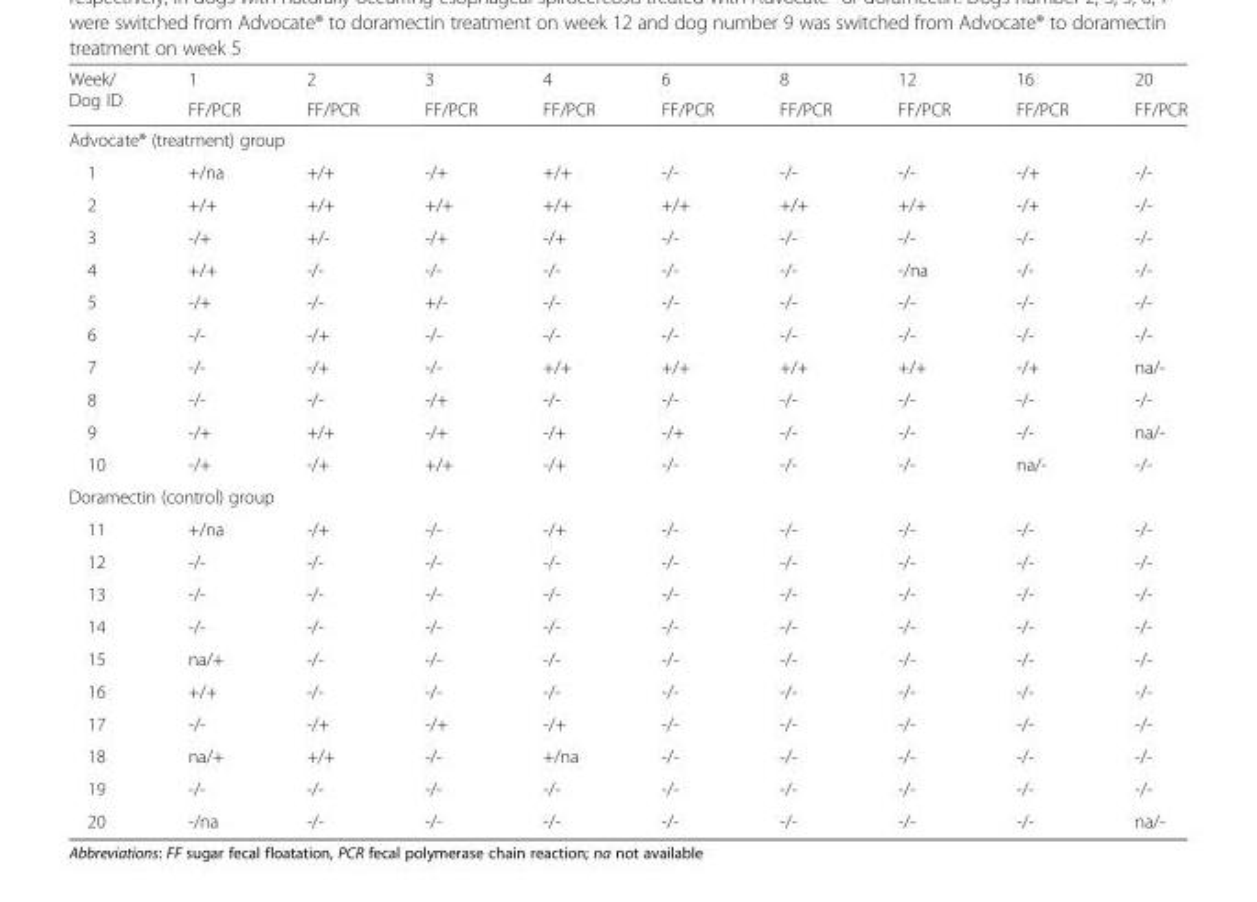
<table><thead><tr><td rowspan="2">Week/ Dog ID</td><td rowspan="2">1 FF/PCR</td><td rowspan="2">2 FF/PCR</td><td rowspan="2">3 FF/PCR</td><td rowspan="2">4 FF/PCR</td><td rowspan="2">6 FF/PCR</td><td rowspan="2">8 FF/PCR</td><td rowspan="2">12 FF/PCR</td><td rowspan="2">16 FF/PCR</td><td rowspan="2">20 FF/PCR</td></tr><tr></tr></thead><tbody><tr><td colspan="10">Advocate® (treatment) group</td></tr><tr><td>1</td><td>+/na</td><td>+/+</td><td>-/+</td><td>+/+</td><td>-/-</td><td>-/-</td><td>-/-</td><td>-/+</td><td>-/-</td></tr><tr><td>2</td><td>+/+</td><td>+/+</td><td>+/+</td><td>+/+</td><td>+/+</td><td>+/+</td><td>+/+</td><td>-/+</td><td>-/-</td></tr><tr><td>3</td><td>-/+</td><td>+/-</td><td>-/+</td><td>-/+</td><td>-/-</td><td>-/-</td><td>-/-</td><td>-/-</td><td>-/-</td></tr><tr><td>4</td><td>+/+</td><td>-/-</td><td>-/-</td><td>-/-</td><td>-/-</td><td>-/-</td><td>-/na</td><td>-/-</td><td>-/-</td></tr><tr><td>5</td><td>-/+</td><td>-/-</td><td>+/-</td><td>-/-</td><td>-/-</td><td>-/-</td><td>-/-</td><td>-/-</td><td>-/-</td></tr><tr><td>6</td><td>-/-</td><td>-/+</td><td>-/-</td><td>-/-</td><td>-/-</td><td>-/-</td><td>-/-</td><td>-/-</td><td>-/-</td></tr><tr><td>7</td><td>-/-</td><td>-/+</td><td>-/-</td><td>+/+</td><td>+/+</td><td>+/+</td><td>+/+</td><td>-/+</td><td>na/-</td></tr><tr><td>8</td><td>-/-</td><td>-/-</td><td>-/+</td><td>-/-</td><td>-/-</td><td>-/-</td><td>-/-</td><td>-/-</td><td>-/-</td></tr><tr><td>9</td><td>-/+</td><td>+/+</td><td>-/+</td><td>-/+</td><td>-/+</td><td>-/-</td><td>-/-</td><td>-/-</td><td>na/-</td></tr><tr><td>10</td><td>-/+</td><td>-/+</td><td>+/+</td><td>-/+</td><td>-/-</td><td>-/-</td><td>-/-</td><td>na/-</td><td>-/-</td></tr><tr><td colspan="10">Doramectin (control) group</td></tr><tr><td>11</td><td>+/na</td><td>-/+</td><td>-/-</td><td>-/+</td><td>-/-</td><td>-/-</td><td>-/-</td><td>-/-</td><td>-/-</td></tr><tr><td>12</td><td>-/-</td><td>-/-</td><td>-/-</td><td>-/-</td><td>-/-</td><td>-/-</td><td>-/-</td><td>-/-</td><td>-/-</td></tr><tr><td>13</td><td>-/-</td><td>-/-</td><td>-/-</td><td>-/-</td><td>-/-</td><td>-/-</td><td>-/-</td><td>-/-</td><td>-/-</td></tr><tr><td>14</td><td>-/-</td><td>-/-</td><td>-/-</td><td>-/-</td><td>-/-</td><td>-/-</td><td>-/-</td><td>-/-</td><td>-/-</td></tr><tr><td>15</td><td>na/+</td><td>-/-</td><td>-/-</td><td>-/-</td><td>-/-</td><td>-/-</td><td>-/-</td><td>-/-</td><td>-/-</td></tr><tr><td>16</td><td>+/+</td><td>-/-</td><td>-/-</td><td>-/-</td><td>-/-</td><td>-/-</td><td>-/-</td><td>-/-</td><td>-/-</td></tr><tr><td>17</td><td>-/-</td><td>-/+</td><td>-/+</td><td>-/+</td><td>-/-</td><td>-/-</td><td>-/-</td><td>-/-</td><td>-/-</td></tr><tr><td>18</td><td>na/+</td><td>+/+</td><td>-/-</td><td>+/na</td><td>-/-</td><td>-/-</td><td>-/-</td><td>-/-</td><td>-/-</td></tr><tr><td>19</td><td>-/-</td><td>-/-</td><td>-/-</td><td>-/-</td><td>-/-</td><td>-/-</td><td>-/-</td><td>-/-</td><td>-/-</td></tr><tr><td>20</td><td>-/na</td><td>-/-</td><td>-/-</td><td>-/-</td><td>-/-</td><td>-/-</td><td>-/-</td><td>-/-</td><td>na/-</td></tr></tbody></table>